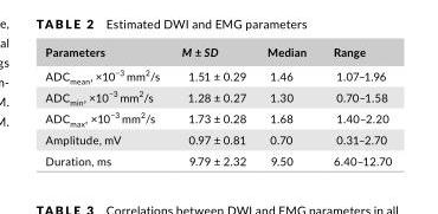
<table><thead><tr><td>Parameters</td><td>M ± SD</td><td>Median</td><td>Range</td></tr></thead><tbody><tr><td>ADC<sub>mean</sub>, ×10<sup>−3</sup> mm<sup>2</sup>/s</td><td>1.51 ± 0.29</td><td>1.46</td><td>1.07–1.96</td></tr><tr><td>ADC<sub>min</sub>, ×10<sup>−3</sup> mm<sup>2</sup>/s</td><td>1.28 ± 0.27</td><td>1.30</td><td>0.70–1.58</td></tr><tr><td>ADC<sub>max</sub>, ×10<sup>−3</sup> mm<sup>2</sup>/s</td><td>1.73 ± 0.28</td><td>1.68</td><td>1.40–2.20</td></tr><tr><td>Amplitude, mV</td><td>0.97 ± 0.81</td><td>0.70</td><td>0.31–2.70</td></tr><tr><td>Duration, ms</td><td>9.79 ± 2.32</td><td>9.50</td><td>6.40–12.70</td></tr></tbody></table>